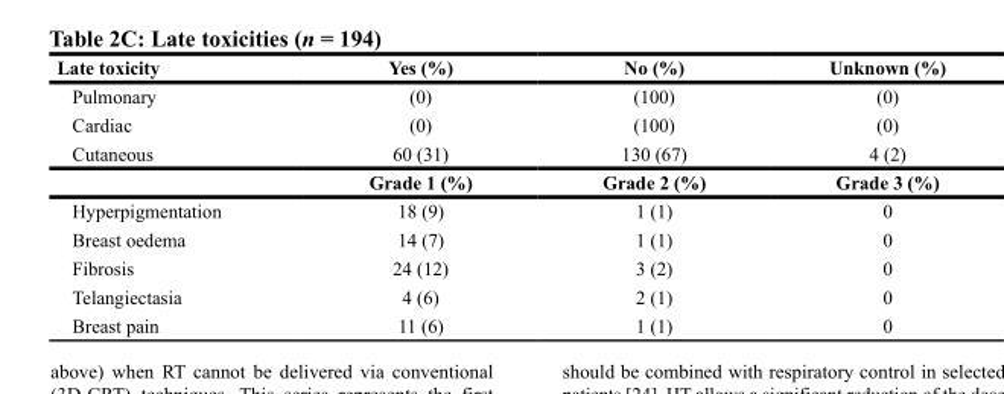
<table><thead><tr><td>Late toxicity</td><td>Yes (%)</td><td>No (%)</td><td>Unknown (%)</td></tr></thead><tbody><tr><td>Pulmonary</td><td>(0)</td><td>(100)</td><td>(0)</td></tr><tr><td>Cardiac</td><td>(0)</td><td>(100)</td><td>(0)</td></tr><tr><td rowspan="2">Cutaneous</td><td>60 (31)</td><td>130 (67)</td><td>4 (2)</td></tr><tr><td>Grade 1 (%)</td><td>Grade 2 (%)</td><td>Grade 3 (%)</td></tr><tr><td>Hyperpigmentation</td><td>18 (9)</td><td>1 (1)</td><td>0</td></tr><tr><td>Breast oedema</td><td>14 (7)</td><td>1 (1)</td><td>0</td></tr><tr><td>Fibrosis</td><td>24 (12)</td><td>3 (2)</td><td>0</td></tr><tr><td>Telangiectasia</td><td>4 (6)</td><td>2 (1)</td><td>0</td></tr><tr><td>Breast pain</td><td>11 (6)</td><td>1 (1)</td><td>0</td></tr></tbody></table>